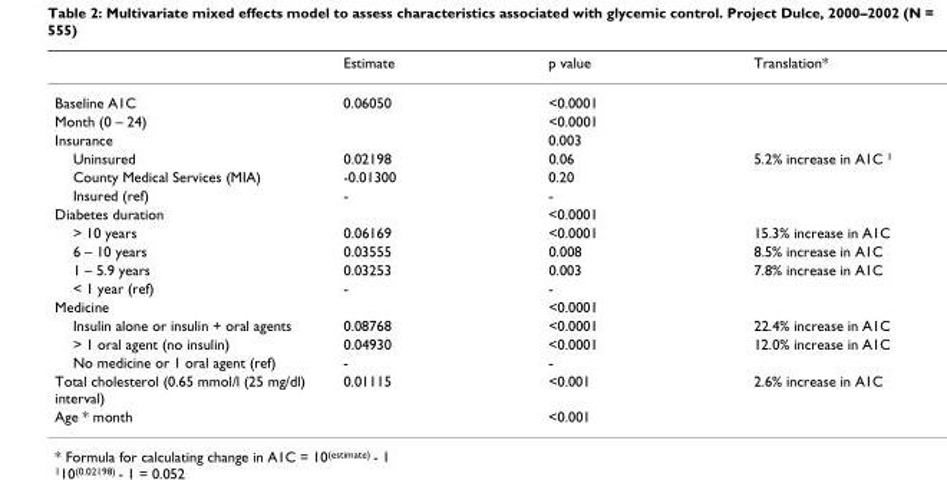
<table><thead><tr><td></td><td>Estimate</td><td>p value</td><td>Translation*</td></tr></thead><tbody><tr><td>Baseline A1C</td><td>0.06050</td><td>&lt;0.0001</td><td></td></tr><tr><td>Month (0 – 24)</td><td></td><td>&lt;0.0001</td><td></td></tr><tr><td>Insurance</td><td></td><td>0.003</td><td></td></tr><tr><td>Uninsured</td><td>0.02198</td><td>0.06</td><td>5.2% increase in A1C <sup>1</sup></td></tr><tr><td>County Medical Services (MIA)</td><td>-0.01300</td><td>0.20</td><td></td></tr><tr><td>Insured (ref)</td><td>-</td><td>-</td><td></td></tr><tr><td>Diabetes duration</td><td></td><td>&lt;0.0001</td><td></td></tr><tr><td>&gt; 10 years</td><td>0.06169</td><td>&lt;0.0001</td><td>15.3% increase in A1C</td></tr><tr><td>6 – 10 years</td><td>0.03555</td><td>0.008</td><td>8.5% increase in A1C</td></tr><tr><td>1 – 5.9 years</td><td>0.03253</td><td>0.003</td><td>7.8% increase in A1C</td></tr><tr><td>&lt; 1 year (ref)</td><td>-</td><td>-</td><td></td></tr><tr><td>Medicine</td><td></td><td>&lt;0.0001</td><td></td></tr><tr><td>Insulin alone or insulin + oral agents</td><td>0.08768</td><td>&lt;0.0001</td><td>22.4% increase in A1C</td></tr><tr><td>&gt; 1 oral agent (no insulin)</td><td>0.04930</td><td>&lt;0.0001</td><td>12.0% increase in A1C</td></tr><tr><td>No medicine or 1 oral agent (ref)</td><td>-</td><td>-</td><td></td></tr><tr><td>Total cholesterol (0.65 mmol/l (25 mg/dl) interval)</td><td>0.01115</td><td>&lt;0.001</td><td>2.6% increase in A1C</td></tr><tr><td>Age * month</td><td></td><td>&lt;0.001</td><td></td></tr></tbody></table>